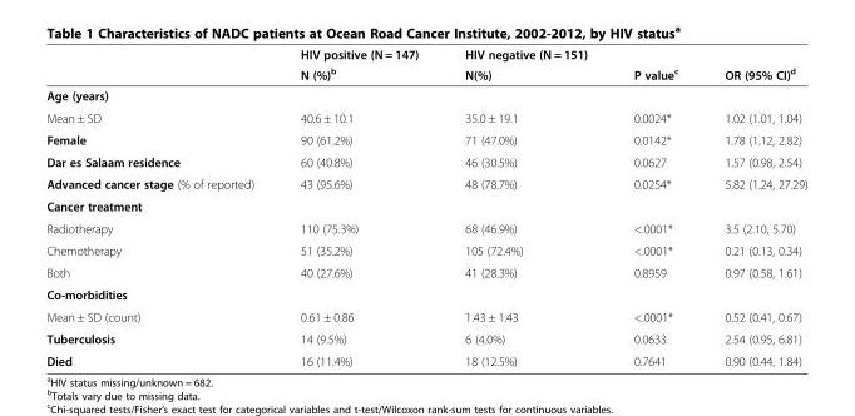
<table><thead><tr><td rowspan="2"></td><td rowspan="2">HIV positive (N = 147) N (%)<sup>b</sup></td><td rowspan="2">HIV negative (N = 151) N(%)</td><td rowspan="2">P value<sup>c</sup></td><td rowspan="2">OR (95% CI)<sup>d</sup></td></tr><tr></tr></thead><tbody><tr><td colspan="5">Age (years)</td></tr><tr><td>Mean ± SD</td><td>40.6 ± 10.1</td><td>35.0 ± 19.1</td><td>0.0024*</td><td>1.02 (1.01, 1.04)</td></tr><tr><td>Female</td><td>90 (61.2%)</td><td>71 (47.0%)</td><td>0.0142*</td><td>1.78 (1.12, 2.82)</td></tr><tr><td>Dar es Salaam residence</td><td>60 (40.8%)</td><td>46 (30.5%)</td><td>0.0627</td><td>1.57 (0.98, 2.54)</td></tr><tr><td>Advanced cancer stage (% of reported)</td><td>43 (95.6%)</td><td>48 (78.7%)</td><td>0.0254*</td><td>5.82 (1.24, 27.29)</td></tr><tr><td colspan="5">Cancer treatment</td></tr><tr><td>Radiotherapy</td><td>110 (75.3%)</td><td>68 (46.9%)</td><td>&lt;.0001*</td><td>3.5 (2.10, 5.70)</td></tr><tr><td>Chemotherapy</td><td>51 (35.2%)</td><td>105 (72.4%)</td><td>&lt;.0001*</td><td>0.21 (0.13, 0.34)</td></tr><tr><td>Both</td><td>40 (27.6%)</td><td>41 (28.3%)</td><td>0.8959</td><td>0.97 (0.58, 1.61)</td></tr><tr><td colspan="5">Co-morbidities</td></tr><tr><td>Mean ± SD (count)</td><td>0.61 ± 0.86</td><td>1.43 ± 1.43</td><td>&lt;.0001*</td><td>0.52 (0.41, 0.67)</td></tr><tr><td>Tuberculosis</td><td>14 (9.5%)</td><td>6 (4.0%)</td><td>0.0633</td><td>2.54 (0.95, 6.81)</td></tr><tr><td>Died</td><td>16 (11.4%)</td><td>18 (12.5%)</td><td>0.7641</td><td>0.90 (0.44, 1.84)</td></tr></tbody></table>